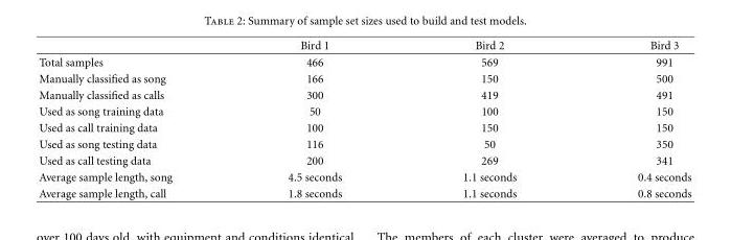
<table><thead><tr><td></td><td>Bird 1</td><td>Bird 2</td><td>Bird 3</td></tr></thead><tbody><tr><td>Total samples</td><td>466</td><td>569</td><td>991</td></tr><tr><td>Manually classified as song</td><td>166</td><td>150</td><td>500</td></tr><tr><td>Manually classified as calls</td><td>300</td><td>419</td><td>491</td></tr><tr><td>Used as song training data</td><td>50</td><td>100</td><td>150</td></tr><tr><td>Used as call training data</td><td>100</td><td>150</td><td>150</td></tr><tr><td>Used as song testing data</td><td>116</td><td>50</td><td>350</td></tr><tr><td>Used as call testing data</td><td>200</td><td>269</td><td>341</td></tr><tr><td>Average sample length, song</td><td>4.5 seconds</td><td>1.1 seconds</td><td>0.4 seconds</td></tr><tr><td>Average sample length, call</td><td>1.8 seconds</td><td>1.1 seconds</td><td>0.8 seconds</td></tr></tbody></table>